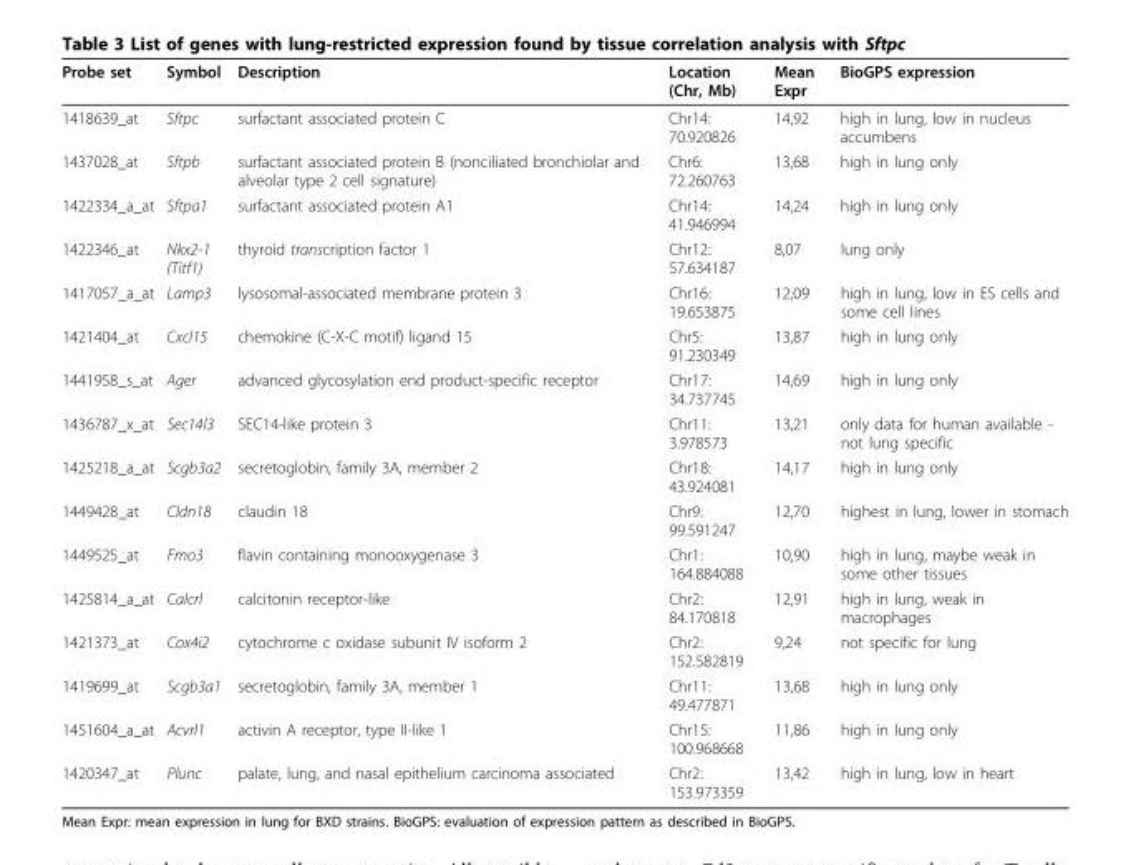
<table><thead><tr><td>Probe set</td><td>Symbol</td><td>Description</td><td>Location (Chr, Mb)</td><td>Mean Expr</td><td>BioGPS expression</td></tr></thead><tbody><tr><td>1418639_at</td><td>Sftpc</td><td>surfactant associated protein C</td><td>Chr14: 70.920826</td><td>14,92</td><td>high in lung, low in nucleus accumbens</td></tr><tr><td>1437028_at</td><td>Sftpb</td><td>surfactant associated protein B (nonciliated bronchiolar and alveolar type 2 cell signature)</td><td>Chr6: 72.260763</td><td>13,68</td><td>high in lung only</td></tr><tr><td>1422334_a_at</td><td>Sftpa1</td><td>surfactant associated protein A1</td><td>Chr14: 41.946994</td><td>14,24</td><td>high in lung only</td></tr><tr><td>1422346_at</td><td>Nkx2-1 (Titf1)</td><td>thyroid transcription factor 1</td><td>Chr12: 57.634187</td><td>8,07</td><td>lung only</td></tr><tr><td>1417057_a_at</td><td>Lamp3</td><td>lysosomal-associated membrane protein 3</td><td>Chr16: 19.653875</td><td>12,09</td><td>high in lung, low in ES cells and some cell lines</td></tr><tr><td>1421404_at</td><td>Cxcl15</td><td>chemokine (C-X-C motif) ligand 15</td><td>Chr5: 91.230349</td><td>13,87</td><td>high in lung only</td></tr><tr><td>1441958_s_at</td><td>Ager</td><td>advanced glycosylation end product-specific receptor</td><td>Chr17: 34.737745</td><td>14,69</td><td>high in lung only</td></tr><tr><td>1436787_x_at</td><td>Sec14l3</td><td>SEC14-like protein 3</td><td>Chr11: 3.978573</td><td>13,21</td><td>only data for human available - not lung specific</td></tr><tr><td>1425218_a_at</td><td>Scgb3a2</td><td>secretoglobin, family 3A, member 2</td><td>Chr18: 43.924081</td><td>14,17</td><td>high in lung only</td></tr><tr><td>1449428_at</td><td>Cldn18</td><td>claudin 18</td><td>Chr9: 99.591247</td><td>12,70</td><td>highest in lung, lower in stomach</td></tr><tr><td>1449525_at</td><td>Fmo3</td><td>flavin containing monooxygenase 3</td><td>Chr1: 164.884088</td><td>10,90</td><td>high in lung, maybe weak in some other tissues</td></tr><tr><td>1425814_a_at</td><td>Calcrl</td><td>calcitonin receptor-like</td><td>Chr2: 84.170818</td><td>12,91</td><td>high in lung, weak in macrophages</td></tr><tr><td>1421373_at</td><td>Cox4i2</td><td>cytochrome c oxidase subunit IV isoform 2</td><td>Chr2: 152.582819</td><td>9,24</td><td>not specific for lung</td></tr><tr><td>1419699_at</td><td>Scgb3a1</td><td>secretoglobin, family 3A, member 1</td><td>Chr11: 49.477871</td><td>13,68</td><td>high in lung only</td></tr><tr><td>1451604_a_at</td><td>Acvrl1</td><td>activin A receptor, type II-like 1</td><td>Chr15: 100.968668</td><td>11,86</td><td>high in lung only</td></tr><tr><td>1420347_at</td><td>Plunc</td><td>palate, lung, and nasal epithelium carcinoma associated</td><td>Chr2: 153.973359</td><td>13,42</td><td>high in lung, low in heart</td></tr></tbody></table>